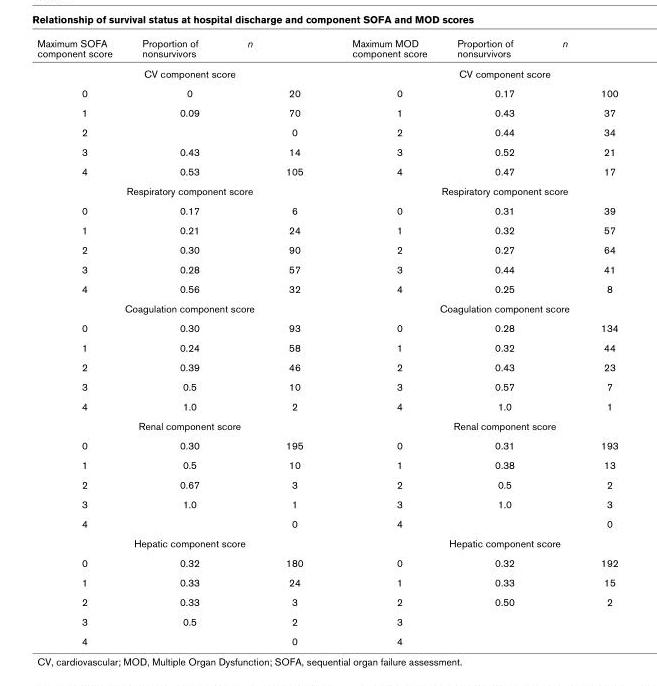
<table><thead><tr><td>Maximum SOFA component score</td><td>Proportion of nonsurvivors</td><td>n</td><td>Maximum MOD component score</td><td>Proportion of nonsurvivors</td><td>n</td></tr></thead><tbody><tr><td colspan="3">CV component score</td><td colspan="3">CV component score</td></tr><tr><td>0</td><td>0</td><td>20</td><td>0</td><td>0.17</td><td>100</td></tr><tr><td>1</td><td>0.09</td><td>70</td><td>1</td><td>0.43</td><td>37</td></tr><tr><td>2</td><td></td><td>0</td><td>2</td><td>0.44</td><td>34</td></tr><tr><td>3</td><td>0.43</td><td>14</td><td>3</td><td>0.52</td><td>21</td></tr><tr><td>4</td><td>0.53</td><td>105</td><td>4</td><td>0.47</td><td>17</td></tr><tr><td colspan="3">Respiratory component score</td><td colspan="3">Respiratory component score</td></tr><tr><td>0</td><td>0.17</td><td>6</td><td>0</td><td>0.31</td><td>39</td></tr><tr><td>1</td><td>0.21</td><td>24</td><td>1</td><td>0.32</td><td>57</td></tr><tr><td>2</td><td>0.30</td><td>90</td><td>2</td><td>0.27</td><td>64</td></tr><tr><td>3</td><td>0.28</td><td>57</td><td>3</td><td>0.44</td><td>41</td></tr><tr><td>4</td><td>0.56</td><td>32</td><td>4</td><td>0.25</td><td>8</td></tr><tr><td colspan="3">Coagulation component score</td><td colspan="3">Coagulation component score</td></tr><tr><td>0</td><td>0.30</td><td>93</td><td>0</td><td>0.28</td><td>134</td></tr><tr><td>1</td><td>0.24</td><td>58</td><td>1</td><td>0.32</td><td>44</td></tr><tr><td>2</td><td>0.39</td><td>46</td><td>2</td><td>0.43</td><td>23</td></tr><tr><td>3</td><td>0.5</td><td>10</td><td>3</td><td>0.57</td><td>7</td></tr><tr><td>4</td><td>1.0</td><td>2</td><td>4</td><td>1.0</td><td>1</td></tr><tr><td colspan="3">Renal component score</td><td colspan="3">Renal component score</td></tr><tr><td>0</td><td>0.30</td><td>195</td><td>0</td><td>0.31</td><td>193</td></tr><tr><td>1</td><td>0.5</td><td>10</td><td>1</td><td>0.38</td><td>13</td></tr><tr><td>2</td><td>0.67</td><td>3</td><td>2</td><td>0.5</td><td>2</td></tr><tr><td>3</td><td>1.0</td><td>1</td><td>3</td><td>1.0</td><td>3</td></tr><tr><td>4</td><td></td><td>0</td><td>4</td><td></td><td>0</td></tr><tr><td colspan="3">Hepatic component score</td><td colspan="3">Hepatic component score</td></tr><tr><td>0</td><td>0.32</td><td>180</td><td>0</td><td>0.32</td><td>192</td></tr><tr><td>1</td><td>0.33</td><td>24</td><td>1</td><td>0.33</td><td>15</td></tr><tr><td>2</td><td>0.33</td><td>3</td><td>2</td><td>0.50</td><td>2</td></tr><tr><td>3</td><td>0.5</td><td>2</td><td>3</td><td></td><td></td></tr><tr><td>4</td><td></td><td>0</td><td>4</td><td></td><td></td></tr></tbody></table>